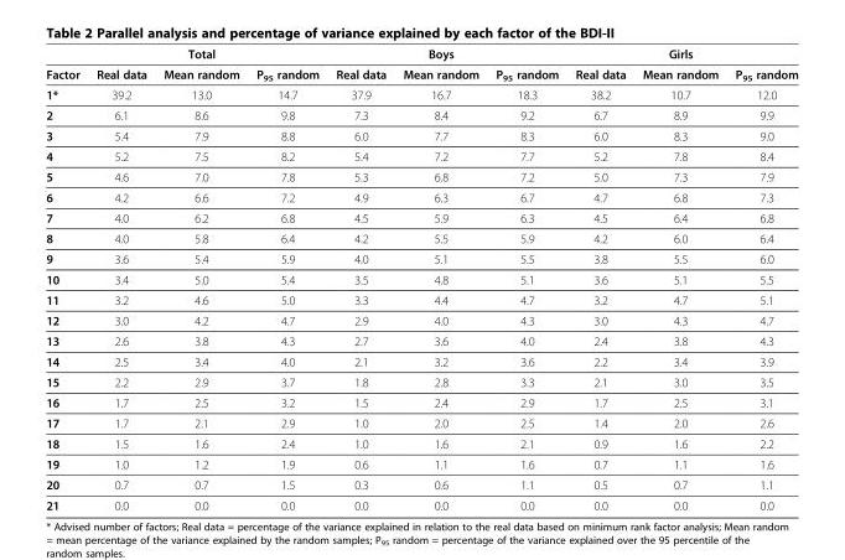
<table><thead><tr><td></td><td></td><td>Total</td><td></td><td></td><td>Boys</td><td></td><td></td><td>Girls</td><td></td></tr></thead><tbody><tr><td>Factor</td><td>Real data</td><td>Mean random</td><td>P<sub>95</sub> random</td><td>Real data</td><td>Mean random</td><td>P<sub>95</sub> random</td><td>Real data</td><td>Mean random</td><td>P<sub>95</sub> random</td></tr><tr><td>1*</td><td>39.2</td><td>13.0</td><td>14.7</td><td>37.9</td><td>16.7</td><td>18.3</td><td>38.2</td><td>10.7</td><td>12.0</td></tr><tr><td>2</td><td>6.1</td><td>8.6</td><td>9.8</td><td>7.3</td><td>8.4</td><td>9.2</td><td>6.7</td><td>8.9</td><td>9.9</td></tr><tr><td>3</td><td>5.4</td><td>7.9</td><td>8.8</td><td>6.0</td><td>7.7</td><td>8.3</td><td>6.0</td><td>8.3</td><td>9.0</td></tr><tr><td>4</td><td>5.2</td><td>7.5</td><td>8.2</td><td>5.4</td><td>7.2</td><td>7.7</td><td>5.2</td><td>7.8</td><td>8.4</td></tr><tr><td>5</td><td>4.6</td><td>7.0</td><td>7.8</td><td>5.3</td><td>6.8</td><td>7.2</td><td>5.0</td><td>7.3</td><td>7.9</td></tr><tr><td>6</td><td>4.2</td><td>6.6</td><td>7.2</td><td>4.9</td><td>6.3</td><td>6.7</td><td>4.7</td><td>6.8</td><td>7.3</td></tr><tr><td>7</td><td>4.0</td><td>6.2</td><td>6.8</td><td>4.5</td><td>5.9</td><td>6.3</td><td>4.5</td><td>6.4</td><td>6.8</td></tr><tr><td>8</td><td>4.0</td><td>5.8</td><td>6.4</td><td>4.2</td><td>5.5</td><td>5.9</td><td>4.2</td><td>6.0</td><td>6.4</td></tr><tr><td>9</td><td>3.6</td><td>5.4</td><td>5.9</td><td>4.0</td><td>5.1</td><td>5.5</td><td>3.8</td><td>5.5</td><td>6.0</td></tr><tr><td>10</td><td>3.4</td><td>5.0</td><td>5.4</td><td>3.5</td><td>4.8</td><td>5.1</td><td>3.6</td><td>5.1</td><td>5.5</td></tr><tr><td>11</td><td>3.2</td><td>4.6</td><td>5.0</td><td>3.3</td><td>4.4</td><td>4.7</td><td>3.2</td><td>4.7</td><td>5.1</td></tr><tr><td>12</td><td>3.0</td><td>4.2</td><td>4.7</td><td>2.9</td><td>4.0</td><td>4.3</td><td>3.0</td><td>4.3</td><td>4.7</td></tr><tr><td>13</td><td>2.6</td><td>3.8</td><td>4.3</td><td>2.7</td><td>3.6</td><td>4.0</td><td>2.4</td><td>3.8</td><td>4.3</td></tr><tr><td>14</td><td>2.5</td><td>3.4</td><td>4.0</td><td>2.1</td><td>3.2</td><td>3.6</td><td>2.2</td><td>3.4</td><td>3.9</td></tr><tr><td>15</td><td>2.2</td><td>2.9</td><td>3.7</td><td>1.8</td><td>2.8</td><td>3.3</td><td>2.1</td><td>3.0</td><td>3.5</td></tr><tr><td>16</td><td>1.7</td><td>2.5</td><td>3.2</td><td>1.5</td><td>2.4</td><td>2.9</td><td>1.7</td><td>2.5</td><td>3.1</td></tr><tr><td>17</td><td>1.7</td><td>2.1</td><td>2.9</td><td>1.0</td><td>2.0</td><td>2.5</td><td>1.4</td><td>2.0</td><td>2.6</td></tr><tr><td>18</td><td>1.5</td><td>1.6</td><td>2.4</td><td>1.0</td><td>1.6</td><td>2.1</td><td>0.9</td><td>1.6</td><td>2.2</td></tr><tr><td>19</td><td>1.0</td><td>1.2</td><td>1.9</td><td>0.6</td><td>1.1</td><td>1.6</td><td>0.7</td><td>1.1</td><td>1.6</td></tr><tr><td>20</td><td>0.7</td><td>0.7</td><td>1.5</td><td>0.3</td><td>0.6</td><td>1.1</td><td>0.5</td><td>0.7</td><td>1.1</td></tr><tr><td>21</td><td>0.0</td><td>0.0</td><td>0.0</td><td>0.0</td><td>0.0</td><td>0.0</td><td>0.0</td><td>0.0</td><td>0.0</td></tr></tbody></table>